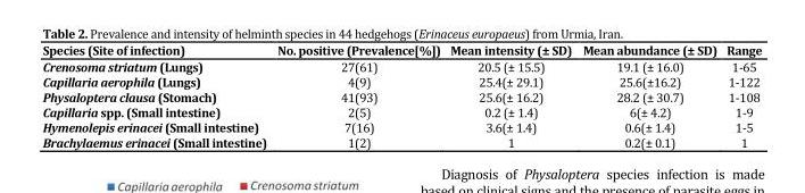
<table><thead><tr><td>Species (Site of infection)</td><td>No. positive (Prevalence[%])</td><td>Mean intensity (± SD)</td><td>Mean abundance (± SD)</td><td>Range</td></tr></thead><tbody><tr><td>Crenosoma striatum (Lungs) Capillaria aerophila (Lungs) Physaloptera clausa (Stomach) Capillaria spp. (Small intestine) Hymenolepis erinacei (Small intestine) Brachylaemus erinacei (Small intestine)</td><td>27(61) 4(9) 41(93) 2(5) 7(16) 1(2)</td><td>20.5 (± 15.5) 25.4(± 29.1) 25.6(± 16.2) 0.2 (± 1.4) 3.6(± 1.4) 1</td><td>19.1 (± 16.0) 25.6(±16.2) 28.2 (± 30.7) 6(± 4.2) 0.6(± 1.4) 0.2(± 0.1)</td><td>1-65 1-122 1-108 1-9 1-5 1</td></tr></tbody></table>